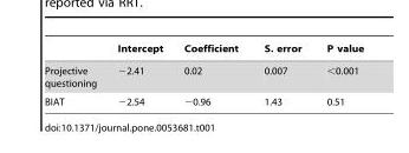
<table><thead><tr><td></td><td>Intercept</td><td>Coefficient</td><td>S. error</td><td>P value</td></tr></thead><tbody><tr><td>Projective questioning</td><td>−2.41</td><td>0.02</td><td>0.007</td><td>&lt;0.001</td></tr><tr><td>BIAT</td><td>−2.54</td><td>−0.96</td><td>1.43</td><td>0.51</td></tr></tbody></table>